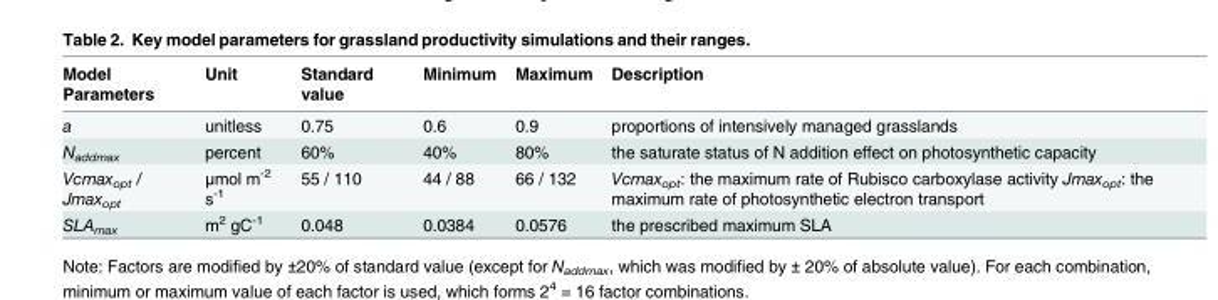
<table><thead><tr><td>Model Parameters</td><td>Unit</td><td>Standard value</td><td>Minimum</td><td>Maximum</td><td>Description</td></tr></thead><tbody><tr><td>a</td><td>unitless</td><td>0.75</td><td>0.6</td><td>0.9</td><td>proportions of intensively managed grasslands</td></tr><tr><td>N<sub>addmax</sub></td><td>percent</td><td>60%</td><td>40%</td><td>80%</td><td>the saturate status of N addition effect on photosynthetic capacity</td></tr><tr><td>Vcmax<sub>opt</sub> / Jmax<sub>opt</sub></td><td>μmol m<sup>-2</sup> s<sup>-1</sup></td><td>55 / 110</td><td>44 / 88</td><td>66 / 132</td><td>Vcmax<sub>opt</sub>: the maximum rate of Rubisco carboxylase activity Jmax<sub>opt</sub>: the maximum rate of photosynthetic electron transport</td></tr><tr><td>SLA<sub>max</sub></td><td>m<sup>2</sup> gC<sup>-1</sup></td><td>0.048</td><td>0.0384</td><td>0.0576</td><td>the prescribed maximum SLA</td></tr></tbody></table>